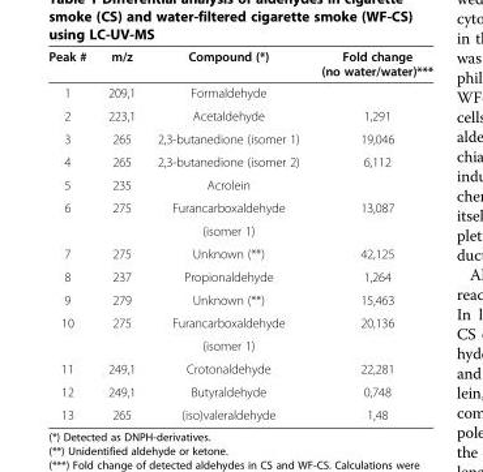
<table><thead><tr><td>Peak #</td><td>m/z</td><td>Compound (*)</td><td>Fold change (no water/water)***</td></tr></thead><tbody><tr><td>1</td><td>209,1</td><td>Formaldehyde</td><td></td></tr><tr><td>2</td><td>223,1</td><td>Acetaldehyde</td><td>1,291</td></tr><tr><td>3</td><td>265</td><td>2,3-butanedione (isomer 1)</td><td>19,046</td></tr><tr><td>4</td><td>265</td><td>2,3-butanedione (isomer 2)</td><td>6,112</td></tr><tr><td>5</td><td>235</td><td>Acrolein</td><td></td></tr><tr><td rowspan="2">6</td><td rowspan="2">275</td><td>Furancarboxaldehyde</td><td rowspan="2">13,087</td></tr><tr><td>(isomer 1)</td></tr><tr><td>7</td><td>275</td><td>Unknown (**)</td><td>42,125</td></tr><tr><td>8</td><td>237</td><td>Propionaldehyde</td><td>1,264</td></tr><tr><td>9</td><td>279</td><td>Unknown (**)</td><td>15,463</td></tr><tr><td rowspan="2">10</td><td rowspan="2">275</td><td>Furancarboxaldehyde</td><td rowspan="2">20,136</td></tr><tr><td>(isomer 1)</td></tr><tr><td>11</td><td>249,1</td><td>Crotonaldehyde</td><td>22,281</td></tr><tr><td>12</td><td>249,1</td><td>Butyraldehyde</td><td>0,748</td></tr><tr><td>13</td><td>265</td><td>(iso)valeraldehyde</td><td>1,48</td></tr></tbody></table>